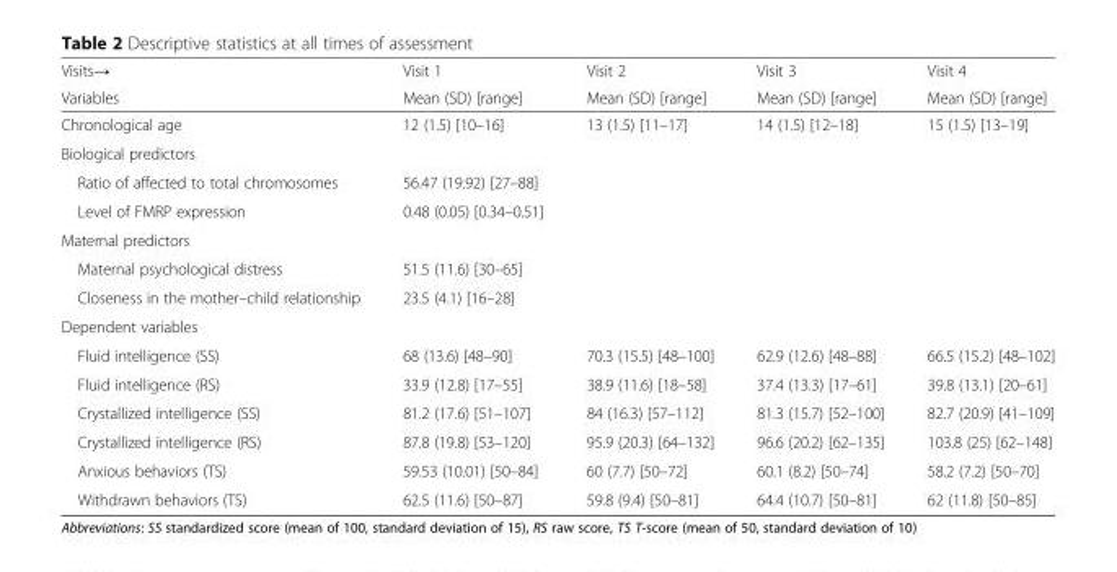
<table><thead><tr><td rowspan="2">Visits→ Variables</td><td rowspan="2">Visit 1 Mean (SD) [range]</td><td rowspan="2">Visit 2 Mean (SD) [range]</td><td rowspan="2">Visit 3 Mean (SD) [range]</td><td rowspan="2">Visit 4 Mean (SD) [range]</td></tr><tr></tr></thead><tbody><tr><td>Chronological age</td><td>12 (1.5) [10–16]</td><td>13 (1.5) [11–17]</td><td>14 (1.5) [12–18]</td><td>15 (1.5) [13–19]</td></tr><tr><td colspan="5">Biological predictors</td></tr><tr><td>Ratio of affected to total chromosomes</td><td>56.47 (19.92) [27–88]</td><td></td><td></td><td></td></tr><tr><td>Level of FMRP expression</td><td>0.48 (0.05) [0.34–0.51]</td><td></td><td></td><td></td></tr><tr><td colspan="5">Maternal predictors</td></tr><tr><td>Maternal psychological distress</td><td>51.5 (11.6) [30–65]</td><td></td><td></td><td></td></tr><tr><td>Closeness in the mother–child relationship</td><td>23.5 (4.1) [16–28]</td><td></td><td></td><td></td></tr><tr><td colspan="5">Dependent variables</td></tr><tr><td>Fluid intelligence (SS)</td><td>68 (13.6) [48–90]</td><td>70.3 (15.5) [48–100]</td><td>62.9 (12.6) [48–88]</td><td>66.5 (15.2) [48–102]</td></tr><tr><td>Fluid intelligence (RS)</td><td>33.9 (12.8) [17–55]</td><td>38.9 (11.6) [18–58]</td><td>37.4 (13.3) [17–61]</td><td>39.8 (13.1) [20–61]</td></tr><tr><td>Crystallized intelligence (SS)</td><td>81.2 (17.6) [51–107]</td><td>84 (16.3) [57–112]</td><td>81.3 (15.7) [52–100]</td><td>82.7 (20.9) [41–109]</td></tr><tr><td>Crystallized intelligence (RS)</td><td>87.8 (19.8) [53–120]</td><td>95.9 (20.3) [64–132]</td><td>96.6 (20.2) [62–135]</td><td>103.8 (25) [62–148]</td></tr><tr><td>Anxious behaviors (TS)</td><td>59.53 (10.01) [50–84]</td><td>60 (7.7) [50–72]</td><td>60.1 (8.2) [50–74]</td><td>58.2 (7.2) [50–70]</td></tr><tr><td>Withdrawn behaviors (TS)</td><td>62.5 (11.6) [50–87]</td><td>59.8 (9.4) [50–81]</td><td>64.4 (10.7) [50–81]</td><td>62 (11.8) [50–85]</td></tr></tbody></table>